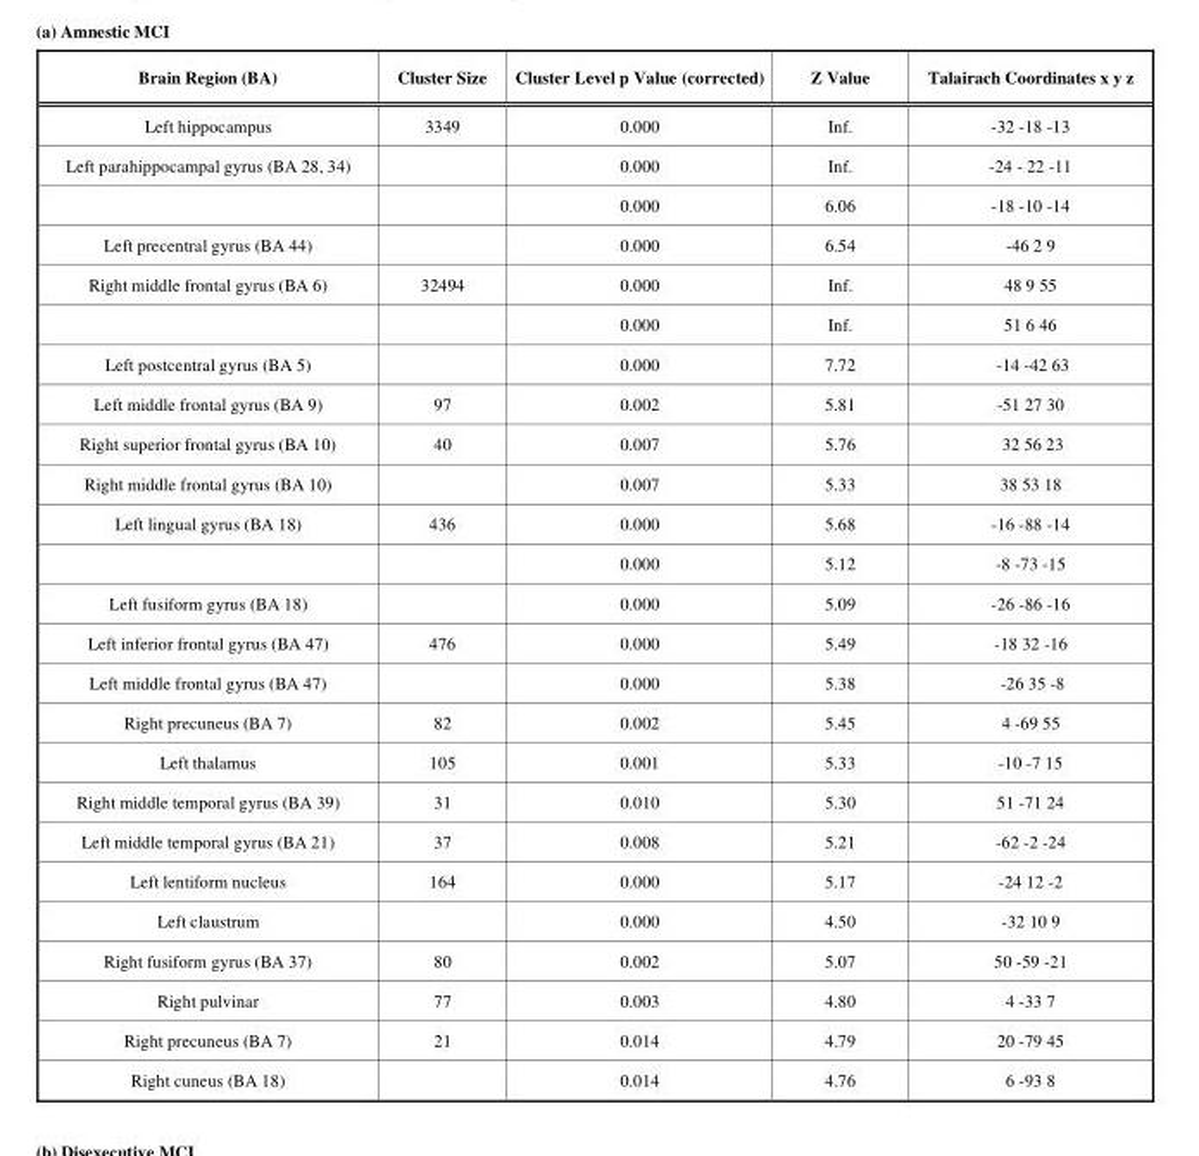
<table><thead><tr><td>Brain Region (BA)</td><td>Cluster Size</td><td>Cluster Level p Value (corrected)</td><td>Z Value</td><td>Talairach Coordinates x y z</td></tr></thead><tbody><tr><td>Left hippocampus</td><td>3349</td><td>0.000</td><td>Inf.</td><td>-32 -18 -13</td></tr><tr><td rowspan="2">Left parahippocampal gyrus (BA 28, 34)</td><td></td><td>0.000</td><td>Inf.</td><td>-24 - 22 -11</td></tr><tr><td></td><td>0.000</td><td>6.06</td><td>-18 -10 -14</td></tr><tr><td>Left precentral gyrus (BA 44)</td><td></td><td>0.000</td><td>6.54</td><td>-46 2 9</td></tr><tr><td rowspan="2">Right middle frontal gyrus (BA 6)</td><td>32494</td><td>0.000</td><td>Inf.</td><td>48 9 55</td></tr><tr><td></td><td>0.000</td><td>Inf.</td><td>51 6 46</td></tr><tr><td>Left postcentral gyrus (BA 5)</td><td></td><td>0.000</td><td>7.72</td><td>-14 -42 63</td></tr><tr><td>Left middle frontal gyrus (BA 9)</td><td>97</td><td>0.002</td><td>5.81</td><td>-51 27 30</td></tr><tr><td>Right superior frontal gyrus (BA 10)</td><td>40</td><td>0.007</td><td>5.76</td><td>32 56 23</td></tr><tr><td>Right middle frontal gyrus (BA 10)</td><td></td><td>0.007</td><td>5.33</td><td>38 53 18</td></tr><tr><td rowspan="2">Left lingual gyrus (BA 18)</td><td>436</td><td>0.000</td><td>5.68</td><td>-16 -88 -14</td></tr><tr><td></td><td>0.000</td><td>5.12</td><td>-8 -73 -15</td></tr><tr><td>Left fusiform gyrus (BA 18)</td><td></td><td>0.000</td><td>5.09</td><td>-26 -86 -16</td></tr><tr><td>Left inferior frontal gyrus (BA 47)</td><td>476</td><td>0.000</td><td>5.49</td><td>-18 32 -16</td></tr><tr><td>Left middle frontal gyrus (BA 47)</td><td></td><td>0.000</td><td>5.38</td><td>-26 35 -8</td></tr><tr><td>Right precuneus (BA 7)</td><td>82</td><td>0.002</td><td>5.45</td><td>4 -69 55</td></tr><tr><td>Left thalamus</td><td>105</td><td>0.001</td><td>5.33</td><td>-10 -7 15</td></tr><tr><td>Right middle temporal gyrus (BA 39)</td><td>31</td><td>0.010</td><td>5.30</td><td>51 -71 24</td></tr><tr><td>Left middle temporal gyrus (BA 21)</td><td>37</td><td>0.008</td><td>5.21</td><td>-62 -2 -24</td></tr><tr><td>Left lentiform nucleus</td><td>164</td><td>0.000</td><td>5.17</td><td>-24 12 -2</td></tr><tr><td>Left claustrum</td><td></td><td>0.000</td><td>4.50</td><td>-32 10 9</td></tr><tr><td>Right fusiform gyrus (BA 37)</td><td>80</td><td>0.002</td><td>5.07</td><td>50 -59 -21</td></tr><tr><td>Right pulvinar</td><td>77</td><td>0.003</td><td>4.80</td><td>4 -33 7</td></tr><tr><td>Right precuneus (BA 7)</td><td>21</td><td>0.014</td><td>4.79</td><td>20 -79 45</td></tr><tr><td>Right cuneus (BA 18)</td><td></td><td>0.014</td><td>4.76</td><td>6 -93 8</td></tr></tbody></table>